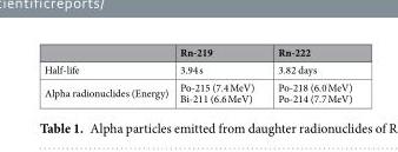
<table><thead><tr><td></td><td>Rn-219</td><td>Rn-222</td></tr></thead><tbody><tr><td>Half-life</td><td>3.94 s</td><td>3.82 days</td></tr><tr><td>Alpha radionuclides (Energy)</td><td>Po-215 (7.4 MeV) Bi-211 (6.6 MeV)</td><td>Po-218 (6.0 MeV) Po-214 (7.7 MeV)</td></tr></tbody></table>